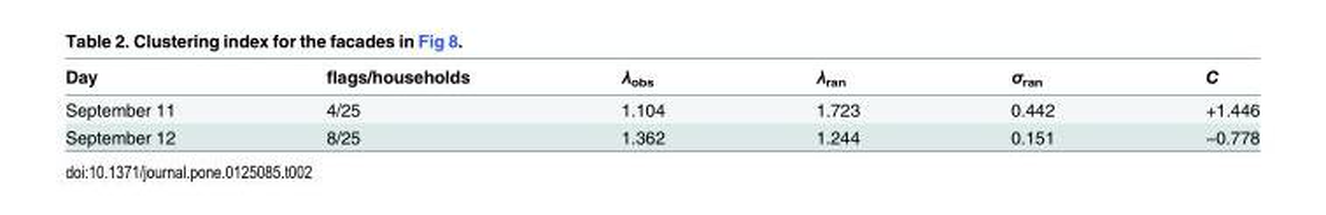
<table><thead><tr><td>Day</td><td>flags/households</td><td>λ<sub>obs</sub></td><td>λ<sub>ran</sub></td><td>σ<sub>ran</sub></td><td>C</td></tr></thead><tbody><tr><td>September 11</td><td>4/25</td><td>1.104</td><td>1.723</td><td>0.442</td><td>+1.446</td></tr><tr><td>September 12</td><td>8/25</td><td>1.362</td><td>1.244</td><td>0.151</td><td>−0.778</td></tr></tbody></table>